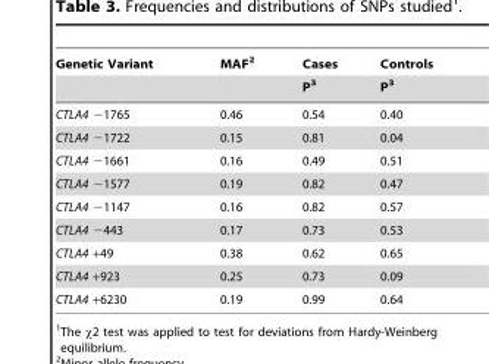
<table><thead><tr><td rowspan="2">Genetic Variant</td><td rowspan="2">MAF<sup>2</sup></td><td rowspan="2">Cases P<sup>3</sup></td><td rowspan="2">Controls P<sup>3</sup></td></tr><tr></tr></thead><tbody><tr><td>CTLA4 −1765</td><td>0.46</td><td>0.54</td><td>0.40</td></tr><tr><td>CTLA4 −1722</td><td>0.15</td><td>0.81</td><td>0.04</td></tr><tr><td>CTLA4 −1661</td><td>0.16</td><td>0.49</td><td>0.51</td></tr><tr><td>CTLA4 −1577</td><td>0.19</td><td>0.82</td><td>0.47</td></tr><tr><td>CTLA4 −1147</td><td>0.16</td><td>0.82</td><td>0.57</td></tr><tr><td>CTLA4 −443</td><td>0.17</td><td>0.73</td><td>0.53</td></tr><tr><td>CTLA4 +49</td><td>0.38</td><td>0.62</td><td>0.65</td></tr><tr><td>CTLA4 +923</td><td>0.25</td><td>0.73</td><td>0.09</td></tr><tr><td>CTLA4 +6230</td><td>0.19</td><td>0.99</td><td>0.64</td></tr></tbody></table>